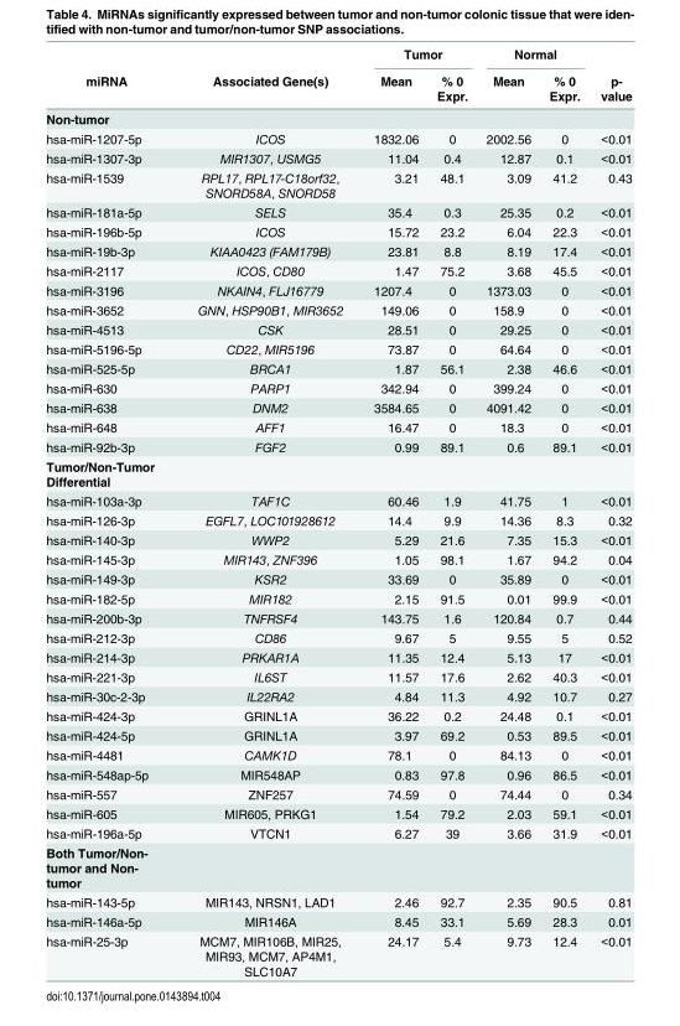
<table><thead><tr><td rowspan="2">miRNA</td><td rowspan="2">Associated Gene(s)</td><td colspan="2">Tumor</td><td colspan="2">Normal</td><td rowspan="2">p- value</td></tr><tr><td>Mean</td><td>% 0 Expr.</td><td>Mean</td><td>% 0 Expr.</td></tr></thead><tbody><tr><td colspan="7">Non-tumor</td></tr><tr><td>hsa-miR-1207-5p</td><td>ICOS</td><td>1832.06</td><td>0</td><td>2002.56</td><td>0</td><td>&lt;0.01</td></tr><tr><td>hsa-miR-1307-3p</td><td>MIR1307, USMG5</td><td>11.04</td><td>0.4</td><td>12.87</td><td>0.1</td><td>&lt;0.01</td></tr><tr><td>hsa-miR-1539</td><td>RPL17, RPL17-C18orf32, SNORD58A, SNORD58</td><td>3.21</td><td>48.1</td><td>3.09</td><td>41.2</td><td>0.43</td></tr><tr><td>hsa-miR-181a-5p</td><td>SELS</td><td>35.4</td><td>0.3</td><td>25.35</td><td>0.2</td><td>&lt;0.01</td></tr><tr><td>hsa-miR-196b-5p</td><td>ICOS</td><td>15.72</td><td>23.2</td><td>6.04</td><td>22.3</td><td>&lt;0.01</td></tr><tr><td>hsa-miR-19b-3p</td><td>KIAA0423 (FAM179B)</td><td>23.81</td><td>8.8</td><td>8.19</td><td>17.4</td><td>&lt;0.01</td></tr><tr><td>hsa-miR-2117</td><td>ICOS, CD80</td><td>1.47</td><td>75.2</td><td>3.68</td><td>45.5</td><td>&lt;0.01</td></tr><tr><td>hsa-miR-3196</td><td>NKAIN4, FLJ16779</td><td>1207.4</td><td>0</td><td>1373.03</td><td>0</td><td>&lt;0.01</td></tr><tr><td>hsa-miR-3652</td><td>GNN, HSP90B1, MIR3652</td><td>149.06</td><td>0</td><td>158.9</td><td>0</td><td>&lt;0.01</td></tr><tr><td>hsa-miR-4513</td><td>CSK</td><td>28.51</td><td>0</td><td>29.25</td><td>0</td><td>&lt;0.01</td></tr><tr><td>hsa-miR-5196-5p</td><td>CD22, MIR5196</td><td>73.87</td><td>0</td><td>64.64</td><td>0</td><td>&lt;0.01</td></tr><tr><td>hsa-miR-525-5p</td><td>BRCA1</td><td>1.87</td><td>56.1</td><td>2.38</td><td>46.6</td><td>&lt;0.01</td></tr><tr><td>hsa-miR-630</td><td>PARP1</td><td>342.94</td><td>0</td><td>399.24</td><td>0</td><td>&lt;0.01</td></tr><tr><td>hsa-miR-638</td><td>DNM2</td><td>3584.65</td><td>0</td><td>4091.42</td><td>0</td><td>&lt;0.01</td></tr><tr><td>hsa-miR-648</td><td>AFF1</td><td>16.47</td><td>0</td><td>18.3</td><td>0</td><td>&lt;0.01</td></tr><tr><td>hsa-miR-92b-3p</td><td>FGF2</td><td>0.99</td><td>89.1</td><td>0.6</td><td>89.1</td><td>&lt;0.01</td></tr><tr><td colspan="7">Tumor/Non-Tumor Differential</td></tr><tr><td>hsa-miR-103a-3p</td><td>TAF1C</td><td>60.46</td><td>1.9</td><td>41.75</td><td>1</td><td>&lt;0.01</td></tr><tr><td>hsa-miR-126-3p</td><td>EGFL7, LOC101928612</td><td>14.4</td><td>9.9</td><td>14.36</td><td>8.3</td><td>0.32</td></tr><tr><td>hsa-miR-140-3p</td><td>WWP2</td><td>5.29</td><td>21.6</td><td>7.35</td><td>15.3</td><td>&lt;0.01</td></tr><tr><td>hsa-miR-145-3p</td><td>MIR143, ZNF396</td><td>1.05</td><td>98.1</td><td>1.67</td><td>94.2</td><td>0.04</td></tr><tr><td>hsa-miR-149-3p</td><td>KSR2</td><td>33.69</td><td>0</td><td>35.89</td><td>0</td><td>&lt;0.01</td></tr><tr><td>hsa-miR-182-5p</td><td>MIR182</td><td>2.15</td><td>91.5</td><td>0.01</td><td>99.9</td><td>&lt;0.01</td></tr><tr><td>hsa-miR-200b-3p</td><td>TNFRSF4</td><td>143.75</td><td>1.6</td><td>120.84</td><td>0.7</td><td>0.44</td></tr><tr><td>hsa-miR-212-3p</td><td>CD86</td><td>9.67</td><td>5</td><td>9.55</td><td>5</td><td>0.52</td></tr><tr><td>hsa-miR-214-3p</td><td>PRKAR1A</td><td>11.35</td><td>12.4</td><td>5.13</td><td>17</td><td>&lt;0.01</td></tr><tr><td>hsa-miR-221-3p</td><td>IL6ST</td><td>11.57</td><td>17.6</td><td>2.62</td><td>40.3</td><td>&lt;0.01</td></tr><tr><td>hsa-miR-30c-2-3p</td><td>IL22RA2</td><td>4.84</td><td>11.3</td><td>4.92</td><td>10.7</td><td>0.27</td></tr><tr><td>hsa-miR-424-3p</td><td>GRINL1A</td><td>36.22</td><td>0.2</td><td>24.48</td><td>0.1</td><td>&lt;0.01</td></tr><tr><td>hsa-miR-424-5p</td><td>GRINL1A</td><td>3.97</td><td>69.2</td><td>0.53</td><td>89.5</td><td>&lt;0.01</td></tr><tr><td>hsa-miR-4481</td><td>CAMK1D</td><td>78.1</td><td>0</td><td>84.13</td><td>0</td><td>&lt;0.01</td></tr><tr><td>hsa-miR-548ap-5p</td><td>MIR548AP</td><td>0.83</td><td>97.8</td><td>0.96</td><td>86.5</td><td>&lt;0.01</td></tr><tr><td>hsa-miR-557</td><td>ZNF257</td><td>74.59</td><td>0</td><td>74.44</td><td>0</td><td>0.34</td></tr><tr><td>hsa-miR-605</td><td>MIR605, PRKG1</td><td>1.54</td><td>79.2</td><td>2.03</td><td>59.1</td><td>&lt;0.01</td></tr><tr><td>hsa-miR-196a-5p</td><td>VTCN1</td><td>6.27</td><td>39</td><td>3.66</td><td>31.9</td><td>&lt;0.01</td></tr><tr><td colspan="7">Both Tumor/Non- tumor and Non- tumor</td></tr><tr><td>hsa-miR-143-5p</td><td>MIR143, NRSN1, LAD1</td><td>2.46</td><td>92.7</td><td>2.35</td><td>90.5</td><td>0.81</td></tr><tr><td>hsa-miR-146a-5p</td><td>MIR146A</td><td>8.45</td><td>33.1</td><td>5.69</td><td>28.3</td><td>0.01</td></tr><tr><td>hsa-miR-25-3p</td><td>MCM7, MIR106B, MIR25, MIR93, MCM7, AP4M1, SLC10A7</td><td>24.17</td><td>5.4</td><td>9.73</td><td>12.4</td><td>&lt;0.01</td></tr></tbody></table>